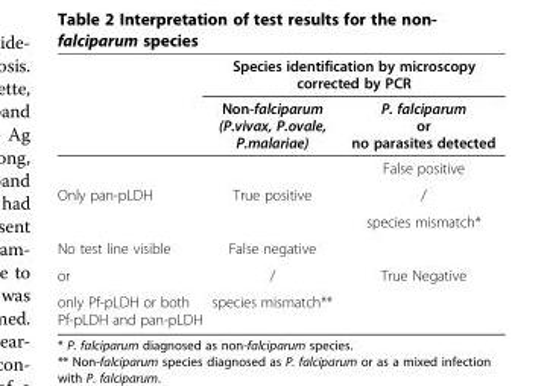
<table><thead><tr><td rowspan="2"></td><td colspan="2">Species identification by microscopy corrected by PCR</td></tr><tr><td>Non-falciparum (P.vivax, P.ovale, P.malariae)</td><td>P. falciparum or no parasites detected</td></tr></thead><tbody><tr><td></td><td></td><td>False positive</td></tr><tr><td rowspan="2">Only pan-pLDH</td><td>True positive</td><td>/</td></tr><tr><td></td><td>species mismatch*</td></tr><tr><td>No test line visible</td><td>False negative</td><td></td></tr><tr><td>or</td><td>/</td><td>True Negative</td></tr><tr><td>only Pf-pLDH or both Pf-pLDH and pan-pLDH</td><td>species mismatch**</td><td></td></tr></tbody></table>